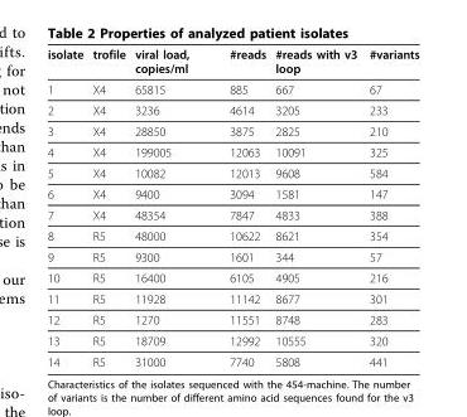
<table><thead><tr><td>isolate</td><td>trofile</td><td>viral load, copies/ml</td><td>#reads</td><td>#reads with v3 loop</td><td>#variants</td></tr></thead><tbody><tr><td>1</td><td>X4</td><td>65815</td><td>885</td><td>667</td><td>67</td></tr><tr><td>2</td><td>X4</td><td>3236</td><td>4614</td><td>3205</td><td>233</td></tr><tr><td>3</td><td>X4</td><td>28850</td><td>3875</td><td>2825</td><td>210</td></tr><tr><td>4</td><td>X4</td><td>199005</td><td>12063</td><td>10091</td><td>325</td></tr><tr><td>5</td><td>X4</td><td>10082</td><td>12013</td><td>9608</td><td>584</td></tr><tr><td>6</td><td>X4</td><td>9400</td><td>3094</td><td>1581</td><td>147</td></tr><tr><td>7</td><td>X4</td><td>48354</td><td>7847</td><td>4833</td><td>388</td></tr><tr><td>8</td><td>R5</td><td>48000</td><td>10622</td><td>8621</td><td>354</td></tr><tr><td>9</td><td>R5</td><td>9300</td><td>1601</td><td>344</td><td>57</td></tr><tr><td>10</td><td>R5</td><td>16400</td><td>6105</td><td>4905</td><td>216</td></tr><tr><td>11</td><td>R5</td><td>11928</td><td>11142</td><td>8677</td><td>301</td></tr><tr><td>12</td><td>R5</td><td>1270</td><td>11551</td><td>8748</td><td>283</td></tr><tr><td>13</td><td>R5</td><td>18709</td><td>12992</td><td>10555</td><td>320</td></tr><tr><td>14</td><td>R5</td><td>31000</td><td>7740</td><td>5808</td><td>441</td></tr></tbody></table>